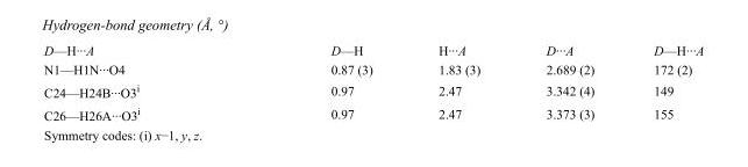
<table><tbody><tr><td>D—H···A</td><td>D—H</td><td>H···A</td><td>D···A</td><td>D—H···A</td></tr><tr><td>N1—H1N···O4</td><td>0.87 (3)</td><td>1.83 (3)</td><td>2.689 (2)</td><td>172 (2)</td></tr><tr><td>C24—H24B···O3<sup>i</sup></td><td>0.97</td><td>2.47</td><td>3.342 (4)</td><td>149</td></tr><tr><td>C26—H26A···O3<sup>i</sup></td><td>0.97</td><td>2.47</td><td>3.373 (3)</td><td>155</td></tr></tbody></table>